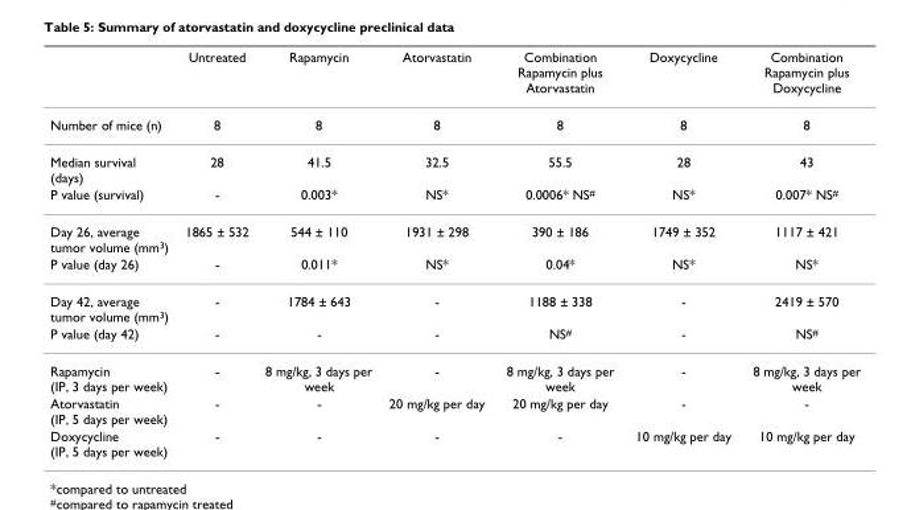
<table><thead><tr><td></td><td>Untreated</td><td>Rapamycin</td><td>Atorvastatin</td><td>Combination Rapamycin plus Atorvastatin</td><td>Doxycycline</td><td>Combination Rapamycin plus Doxycycline</td></tr></thead><tbody><tr><td>Number of mice (n)</td><td>8</td><td>8</td><td>8</td><td>8</td><td>8</td><td>8</td></tr><tr><td>Median survival (days)</td><td>28</td><td>41.5</td><td>32.5</td><td>55.5</td><td>28</td><td>43</td></tr><tr><td>P value (survival)</td><td>-</td><td>0.003*</td><td>NS*</td><td>0.0006* NS<sup>#</sup></td><td>NS*</td><td>0.007* NS<sup>#</sup></td></tr><tr><td>Day 26, average tumor volume (mm<sup>3</sup>)</td><td>1865 ± 532</td><td>544 ± 110</td><td>1931 ± 298</td><td>390 ± 186</td><td>1749 ± 352</td><td>1117 ± 421</td></tr><tr><td>P value (day 26)</td><td>-</td><td>0.011*</td><td>NS*</td><td>0.04*</td><td>NS*</td><td>NS*</td></tr><tr><td>Day 42, average tumor volume (mm<sup>3</sup>)</td><td>-</td><td>1784 ± 643</td><td>-</td><td>1188 ± 338</td><td>-</td><td>2419 ± 570</td></tr><tr><td>P value (day 42)</td><td>-</td><td>-</td><td>-</td><td>NS<sup>#</sup></td><td>-</td><td>NS<sup>#</sup></td></tr><tr><td>Rapamycin (IP, 3 days per week)</td><td>-</td><td>8 mg/kg, 3 days per week</td><td>-</td><td>8 mg/kg, 3 days per week</td><td>-</td><td>8 mg/kg, 3 days per week</td></tr><tr><td>Atorvastatin (IP, 5 days per week)</td><td>-</td><td>-</td><td>20 mg/kg per day</td><td>20 mg/kg per day</td><td>-</td><td>-</td></tr><tr><td>Doxycycline (IP, 5 days per week)</td><td>-</td><td>-</td><td>-</td><td>-</td><td>10 mg/kg per day</td><td>10 mg/kg per day</td></tr></tbody></table>